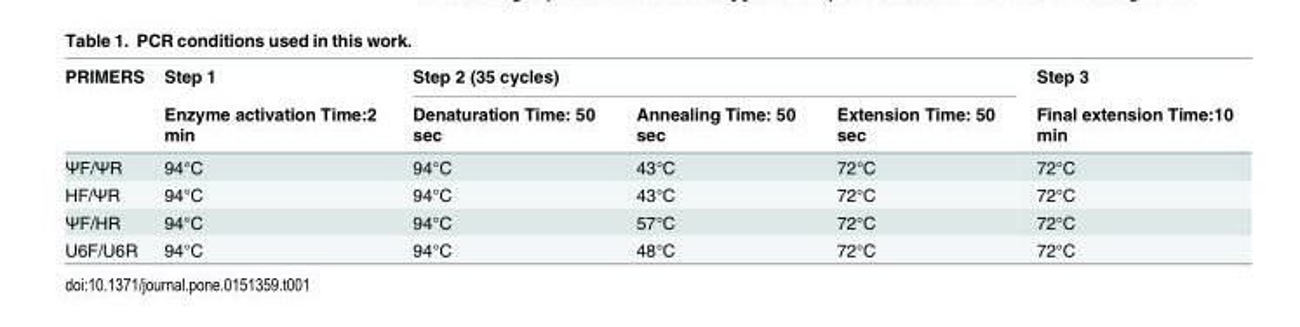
<table><thead><tr><td rowspan="2">PRIMERS</td><td rowspan="2">Step 1 Enzyme activation Time:2 min</td><td colspan="3">Step 2 (35 cycles)</td><td rowspan="2">Step 3 Final extension Time:10 min</td></tr><tr><td>Denaturation Time: 50 sec</td><td>Annealing Time: 50 sec</td><td>Extension Time: 50 sec</td></tr></thead><tbody><tr><td>ΨF/ΨR</td><td>94°C</td><td>94°C</td><td>43°C</td><td>72°C</td><td>72°C</td></tr><tr><td>HF/ΨR</td><td>94°C</td><td>94°C</td><td>43°C</td><td>72°C</td><td>72°C</td></tr><tr><td>ΨF/HR</td><td>94°C</td><td>94°C</td><td>57°C</td><td>72°C</td><td>72°C</td></tr><tr><td>U6F/U6R</td><td>94°C</td><td>94°C</td><td>48°C</td><td>72°C</td><td>72°C</td></tr></tbody></table>